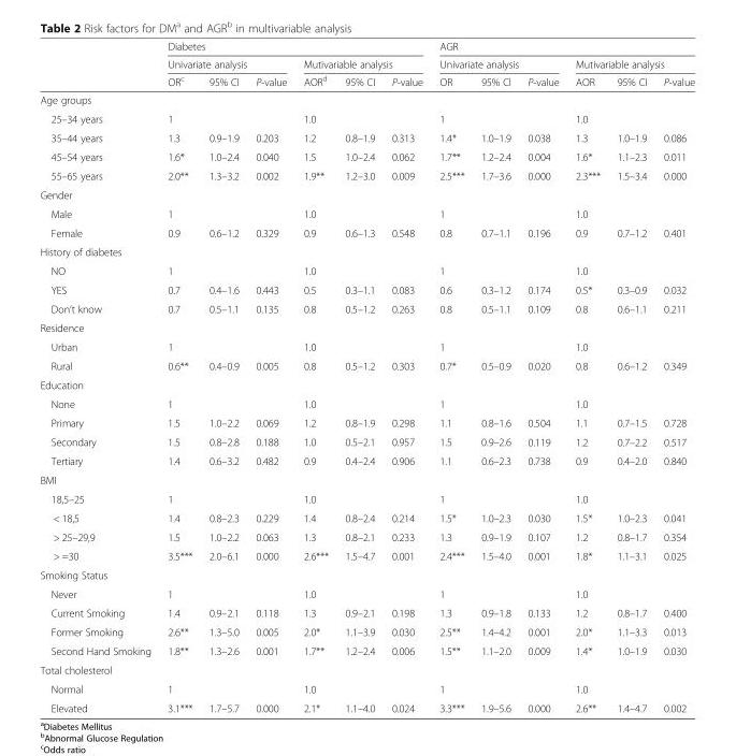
<table><thead><tr><td rowspan="3"></td><td colspan="6">Diabetes</td><td colspan="6">AGR</td></tr><tr><td colspan="3">Univariate analysis</td><td colspan="3">Mutivariable analysis</td><td colspan="3">Univariate analysis</td><td colspan="3">Mutivariable analysis</td></tr><tr><td>OR<sup>c</sup></td><td>95% CI</td><td>P-value</td><td>AOR<sup>d</sup></td><td>95% CI</td><td>P-value</td><td>OR</td><td>95% CI</td><td>P-value</td><td>AOR</td><td>95% CI</td><td>P-value</td></tr></thead><tbody><tr><td colspan="13">Age groups</td></tr><tr><td>25–34 years</td><td>1</td><td></td><td></td><td>1.0</td><td></td><td></td><td>1</td><td></td><td></td><td>1.0</td><td></td><td></td></tr><tr><td>35–44 years</td><td>1.3</td><td>0.9–1.9</td><td>0.203</td><td>1.2</td><td>0.8–1.9</td><td>0.313</td><td>1.4*</td><td>1.0–1.9</td><td>0.038</td><td>1.3</td><td>1.0–1.9</td><td>0.086</td></tr><tr><td>45–54 years</td><td>1.6*</td><td>1.0–2.4</td><td>0.040</td><td>1.5</td><td>1.0–2.4</td><td>0.062</td><td>1.7**</td><td>1.2–2.4</td><td>0.004</td><td>1.6*</td><td>1.1–2.3</td><td>0.011</td></tr><tr><td>55–65 years</td><td>2.0**</td><td>1.3–3.2</td><td>0.002</td><td>1.9**</td><td>1.2–3.0</td><td>0.009</td><td>2.5***</td><td>1.7–3.6</td><td>0.000</td><td>2.3***</td><td>1.5–3.4</td><td>0.000</td></tr><tr><td colspan="13">Gender</td></tr><tr><td>Male</td><td>1</td><td></td><td></td><td>1.0</td><td></td><td></td><td>1</td><td></td><td></td><td>1.0</td><td></td><td></td></tr><tr><td>Female</td><td>0.9</td><td>0.6–1.2</td><td>0.329</td><td>0.9</td><td>0.6–1.3</td><td>0.548</td><td>0.8</td><td>0.7–1.1</td><td>0.196</td><td>0.9</td><td>0.7–1.2</td><td>0.401</td></tr><tr><td colspan="13">History of diabetes</td></tr><tr><td>NO</td><td>1</td><td></td><td></td><td>1.0</td><td></td><td></td><td>1</td><td></td><td></td><td>1.0</td><td></td><td></td></tr><tr><td>YES</td><td>0.7</td><td>0.4–1.6</td><td>0.443</td><td>0.5</td><td>0.3–1.1</td><td>0.083</td><td>0.6</td><td>0.3–1.2</td><td>0.174</td><td>0.5*</td><td>0.3–0.9</td><td>0.032</td></tr><tr><td>Don’t know</td><td>0.7</td><td>0.5–1.1</td><td>0.135</td><td>0.8</td><td>0.5–1.2</td><td>0.263</td><td>0.8</td><td>0.5–1.1</td><td>0.109</td><td>0.8</td><td>0.6–1.1</td><td>0.211</td></tr><tr><td colspan="13">Residence</td></tr><tr><td>Urban</td><td>1</td><td></td><td></td><td>1.0</td><td></td><td></td><td>1</td><td></td><td></td><td>1.0</td><td></td><td></td></tr><tr><td>Rural</td><td>0.6**</td><td>0.4–0.9</td><td>0.005</td><td>0.8</td><td>0.5–1.2</td><td>0.303</td><td>0.7*</td><td>0.5–0.9</td><td>0.020</td><td>0.8</td><td>0.6–1.2</td><td>0.349</td></tr><tr><td colspan="13">Education</td></tr><tr><td>None</td><td>1</td><td></td><td></td><td>1.0</td><td></td><td></td><td>1</td><td></td><td></td><td>1.0</td><td></td><td></td></tr><tr><td>Primary</td><td>1.5</td><td>1.0–2.2</td><td>0.069</td><td>1.2</td><td>0.8–1.9</td><td>0.298</td><td>1.1</td><td>0.8–1.6</td><td>0.504</td><td>1.1</td><td>0.7–1.5</td><td>0.728</td></tr><tr><td>Secondary</td><td>1.5</td><td>0.8–2.8</td><td>0.188</td><td>1.0</td><td>0.5–2.1</td><td>0.957</td><td>1.5</td><td>0.9–2.6</td><td>0.119</td><td>1.2</td><td>0.7–2.2</td><td>0.517</td></tr><tr><td>Tertiary</td><td>1.4</td><td>0.6–3.2</td><td>0.482</td><td>0.9</td><td>0.4–2.4</td><td>0.906</td><td>1.1</td><td>0.6–2.3</td><td>0.738</td><td>0.9</td><td>0.4–2.0</td><td>0.840</td></tr><tr><td colspan="13">BMI</td></tr><tr><td>18,5–25</td><td>1</td><td></td><td></td><td>1.0</td><td></td><td></td><td>1</td><td></td><td></td><td>1.0</td><td></td><td></td></tr><tr><td>&lt; 18,5</td><td>1.4</td><td>0.8–2.3</td><td>0.229</td><td>1.4</td><td>0.8–2.4</td><td>0.214</td><td>1.5*</td><td>1.0–2.3</td><td>0.030</td><td>1.5*</td><td>1.0–2.3</td><td>0.041</td></tr><tr><td>&gt; 25–29,9</td><td>1.5</td><td>1.0–2.2</td><td>0.063</td><td>1.3</td><td>0.8–2.1</td><td>0.233</td><td>1.3</td><td>0.9–1.9</td><td>0.107</td><td>1.2</td><td>0.8–1.7</td><td>0.354</td></tr><tr><td>&gt; =30</td><td>3.5***</td><td>2.0–6.1</td><td>0.000</td><td>2.6***</td><td>1.5–4.7</td><td>0.001</td><td>2.4***</td><td>1.5–4.0</td><td>0.001</td><td>1.8*</td><td>1.1–3.1</td><td>0.025</td></tr><tr><td colspan="13">Smoking Status</td></tr><tr><td>Never</td><td>1</td><td></td><td></td><td>1.0</td><td></td><td></td><td>1</td><td></td><td></td><td>1.0</td><td></td><td></td></tr><tr><td>Current Smoking</td><td>1.4</td><td>0.9–2.1</td><td>0.118</td><td>1.3</td><td>0.9–2.1</td><td>0.198</td><td>1.3</td><td>0.9–1.8</td><td>0.133</td><td>1.2</td><td>0.8–1.7</td><td>0.400</td></tr><tr><td>Former Smoking</td><td>2.6**</td><td>1.3–5.0</td><td>0.005</td><td>2.0*</td><td>1.1–3.9</td><td>0.030</td><td>2.5**</td><td>1.4–4.2</td><td>0.001</td><td>2.0*</td><td>1.1–3.3</td><td>0.013</td></tr><tr><td>Second Hand Smoking</td><td>1.8**</td><td>1.3–2.6</td><td>0.001</td><td>1.7**</td><td>1.2–2.4</td><td>0.006</td><td>1.5**</td><td>1.1–2.0</td><td>0.009</td><td>1.4*</td><td>1.0–1.9</td><td>0.030</td></tr><tr><td colspan="13">Total cholesterol</td></tr><tr><td>Normal</td><td>1</td><td></td><td></td><td>1.0</td><td></td><td></td><td>1</td><td></td><td></td><td>1.0</td><td></td><td></td></tr><tr><td>Elevated</td><td>3.1***</td><td>1.7–5.7</td><td>0.000</td><td>2.1*</td><td>1.1–4.0</td><td>0.024</td><td>3.3***</td><td>1.9–5.6</td><td>0.000</td><td>2.6**</td><td>1.4–4.7</td><td>0.002</td></tr></tbody></table>